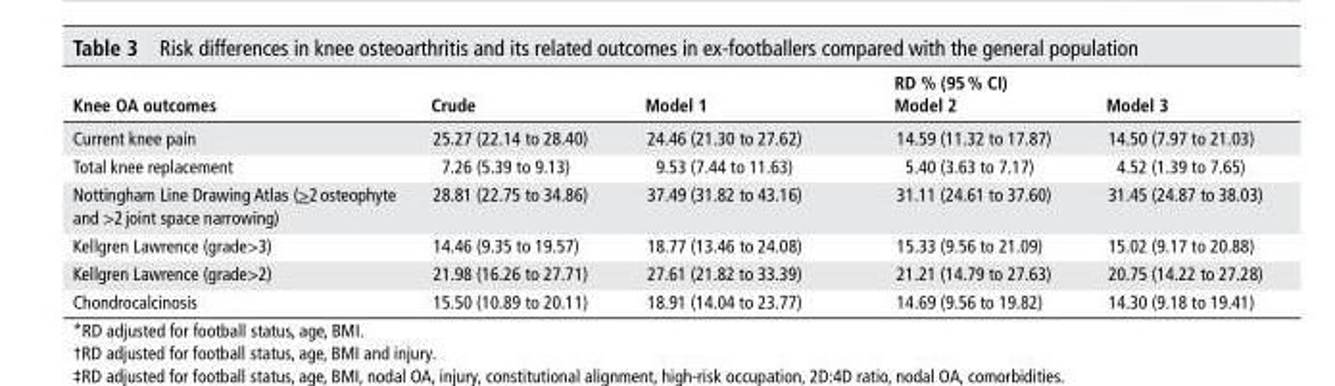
<table><thead><tr><td>Knee OA outcomes</td><td>Crude</td><td>Model 1</td><td>rd % (95 % CI) Model 2</td><td>Model 3</td></tr></thead><tbody><tr><td>Current knee pain</td><td>25.27 (22.14 to 28.40)</td><td>24.46 (21.30 to 27.62)</td><td>14.59 (11.32 to 17.87)</td><td>14.50 (7.97 to 21.03)</td></tr><tr><td>Total knee replacement</td><td>7.26 (5.39 to 9.13)</td><td>9.53 (7.44 to 11.63)</td><td>5.40 (3.63 to 7.17)</td><td>4.52 (1.39 to 7.65)</td></tr><tr><td>Nottingham Line Drawing Atlas (&gt;2 osteophyte and &gt;2 joint space narrowing)</td><td>28.81 (22.75 to 34.86)</td><td>37.49 (31.82 to 43.16)</td><td>31.11 (24.61 to 37.60)</td><td>31.45 (24.87 to 38.03)</td></tr><tr><td>Kellgren Lawrence (grade&gt;3)</td><td>14.46 (9.35 to 19.57)</td><td>18.77 (13.46 to 24.08)</td><td>15.33 (9.56 to 21.09)</td><td>15.02 (9.17 to 20.88)</td></tr><tr><td>Kellgren Lawrence (grade&gt;2)</td><td>21.98 (16.26 to 27.71)</td><td>27.61 (21.82 to 33.39)</td><td>21.21 (14.79 to 27.63)</td><td>20.75 (14.22 to 27.28)</td></tr><tr><td>Chondrocalcinosis</td><td>15.50 (10.89 to 20.11)</td><td>18.91 (14.04 to 23.77)</td><td>14.69 (9.56 to 19.82)</td><td>14.30 (9.18 to 19.41)</td></tr></tbody></table>